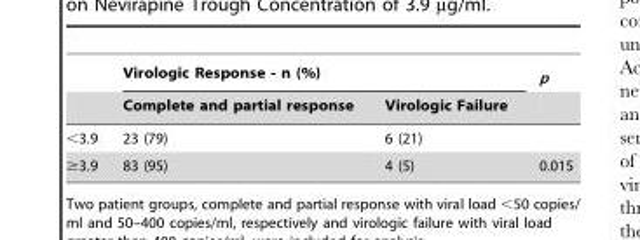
<table><thead><tr><td rowspan="2"></td><td colspan="2">Virologic Response - n (%)</td><td rowspan="2">p</td></tr><tr><td>Complete and partial response</td><td>Virologic Failure</td></tr></thead><tbody><tr><td>&lt;3.9</td><td>23 (79)</td><td>6 (21)</td><td></td></tr><tr><td>≥3.9</td><td>83 (95)</td><td>4 (5)</td><td>0.015</td></tr></tbody></table>